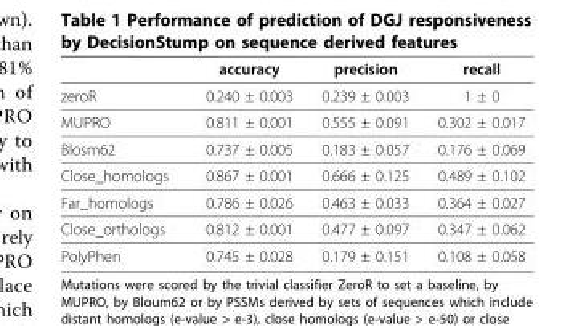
<table><thead><tr><td></td><td>accuracy</td><td>precision</td><td>recall</td></tr></thead><tbody><tr><td>zeroR</td><td>0.240 ± 0.003</td><td>0.239 ± 0.003</td><td>1 ± 0</td></tr><tr><td>MUPRO</td><td>0.811 ± 0.001</td><td>0.555 ± 0.091</td><td>0.302 ± 0.017</td></tr><tr><td>Blosm62</td><td>0.737 ± 0.005</td><td>0.183 ± 0.057</td><td>0.176 ± 0.069</td></tr><tr><td>Close_homologs</td><td>0.867 ± 0.001</td><td>0.666 ± 0.125</td><td>0.489 ± 0.102</td></tr><tr><td>Far_homologs</td><td>0.786 ± 0.026</td><td>0.463 ± 0.033</td><td>0.364 ± 0.027</td></tr><tr><td>Close_orthologs</td><td>0.812 ± 0.001</td><td>0.477 ± 0.097</td><td>0.347 ± 0.062</td></tr><tr><td>PolyPhen</td><td>0.745 ± 0.028</td><td>0.179 ± 0.151</td><td>0.108 ± 0.058</td></tr></tbody></table>